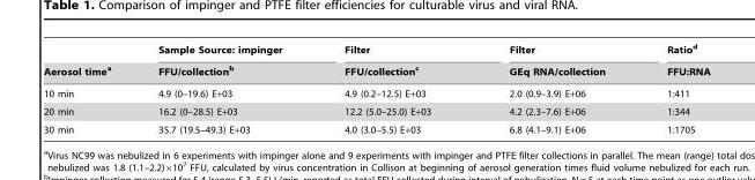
<table><thead><tr><td rowspan="2">Aerosol time<sup>a</sup></td><td rowspan="2">Sample Source: impinger FFU/collection<sup>b</sup></td><td rowspan="2">Filter FFU/collection<sup>c</sup></td><td rowspan="2">Filter GEq RNA/collection</td><td rowspan="2">Ratiod FFU:RNA</td></tr><tr></tr></thead><tbody><tr><td>10 min</td><td>4.9 (0–19.6) E+03</td><td>4.9 (0.2–12.5) E+03</td><td>2.0 (0.9–3.9) E+06</td><td>1:411</td></tr><tr><td>20 min</td><td>16.2 (0–28.5) E+03</td><td>12.2 (5.0–25.0) E+03</td><td>4.2 (2.3–7.6) E+06</td><td>1:344</td></tr><tr><td>30 min</td><td>35.7 (19.5–49.3) E+03</td><td>4.0 (3.0–5.5) E+03</td><td>6.8 (4.1–9.1) E+06</td><td>1:1705</td></tr></tbody></table>